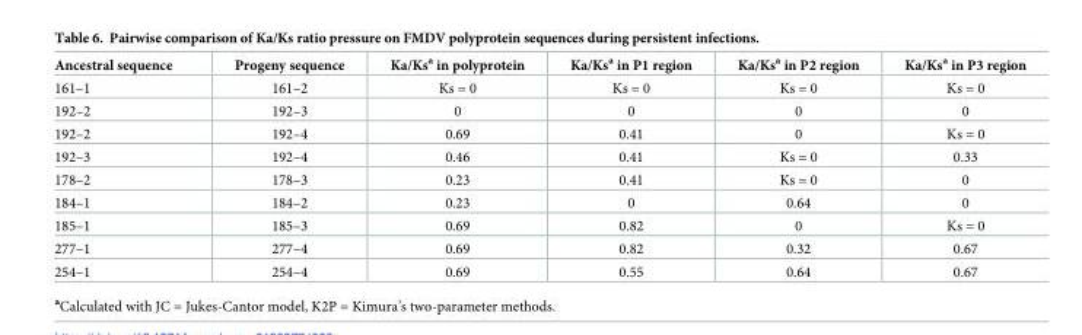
<table><thead><tr><td>Ancestral sequence</td><td>Progeny sequence</td><td>Ka/Ks<sup>a</sup> in polyprotein</td><td>Ka/Ks<sup>a</sup> in P1 region</td><td>Ka/Ks<sup>a</sup> in P2 region</td><td>Ka/Ks<sup>a</sup> in P3 region</td></tr></thead><tbody><tr><td>161–1</td><td>161–2</td><td>Ks = 0</td><td>Ks = 0</td><td>Ks = 0</td><td>Ks = 0</td></tr><tr><td>192–2</td><td>192–3</td><td>0</td><td>0</td><td>0</td><td>0</td></tr><tr><td>192–2</td><td>192–4</td><td>0.69</td><td>0.41</td><td>0</td><td>Ks = 0</td></tr><tr><td>192–3</td><td>192–4</td><td>0.46</td><td>0.41</td><td>Ks = 0</td><td>0.33</td></tr><tr><td>178–2</td><td>178–3</td><td>0.23</td><td>0.41</td><td>Ks = 0</td><td>0</td></tr><tr><td>184–1</td><td>184–2</td><td>0.23</td><td>0</td><td>0.64</td><td>0</td></tr><tr><td>185–1</td><td>185–3</td><td>0.69</td><td>0.82</td><td>0</td><td>Ks = 0</td></tr><tr><td>277–1</td><td>277–4</td><td>0.69</td><td>0.82</td><td>0.32</td><td>0.67</td></tr><tr><td>254–1</td><td>254–4</td><td>0.69</td><td>0.55</td><td>0.64</td><td>0.67</td></tr></tbody></table>